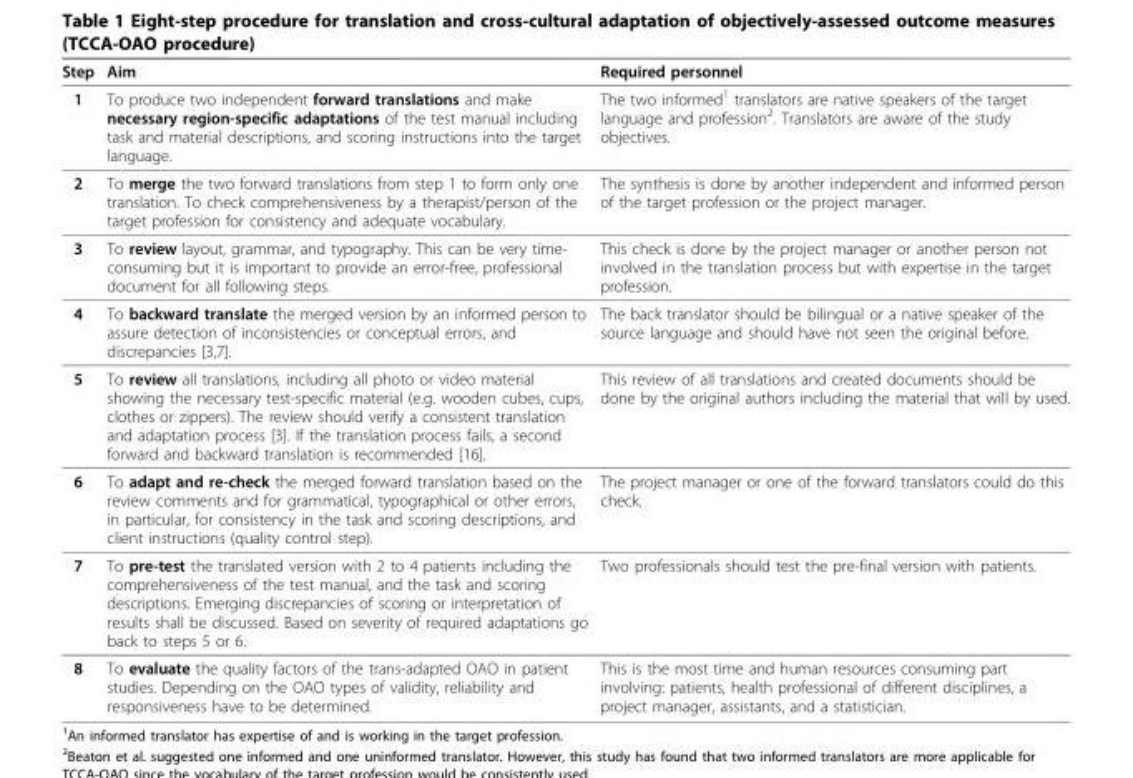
<table><thead><tr><td>Step</td><td>Aim</td><td>Required personnel</td></tr></thead><tbody><tr><td>1</td><td>To produce two independent forward translations and make necessary region-specific adaptations of the test manual including task and material descriptions, and scoring instructions into the target language.</td><td>The two informed1 translators are native speakers of the target language and profession2. Translators are aware of the study objectives.</td></tr><tr><td>2</td><td>To merge the two forward translations from step 1 to form only one translation. To check comprehensiveness by a therapist/person of the target profession for consistency and adequate vocabulary.</td><td>The synthesis is done by another independent and informed person of the target profession or the project manager.</td></tr><tr><td>3</td><td>To review layout, grammar, and typography. This can be very time- consuming but it is important to provide an error-free, professional document for all following steps.</td><td>This check is done by the project manager or another person not involved in the translation process but with expertise in the target profession.</td></tr><tr><td>4</td><td>To backward translate the merged version by an informed person to assure detection of inconsistencies or conceptual errors, and discrepancies [3,7].</td><td>The back translator should be bilingual or a native speaker of the source language and should have not seen the original before.</td></tr><tr><td>5</td><td>To review all translations, including all photo or video material showing the necessary test-specific material (e.g. wooden cubes, cups, clothes or zippers). The review should verify a consistent translation and adaptation process [3]. If the translation process fails, a second forward and backward translation is recommended [16].</td><td>This review of all translations and created documents should be done by the original authors including the material that will by used.</td></tr><tr><td>6</td><td>To adapt and re-check the merged forward translation based on the review comments and for grammatical, typographical or other errors, in particular, for consistency in the task and scoring descriptions, and client instructions (quality control step).</td><td>The project manager or one of the forward translators could do this check.</td></tr><tr><td>7</td><td>To pre-test the translated version with 2 to 4 patients including the comprehensiveness of the test manual, and the task and scoring descriptions. Emerging discrepancies of scoring or interpretation of results shall be discussed. Based on severity of required adaptations go back to steps 5 or 6.</td><td>Two professionals should test the pre-final version with patients.</td></tr><tr><td>8</td><td>To evaluate the quality factors of the trans-adapted OAO in patient studies. Depending on the OAO types of validity, reliability and responsiveness have to be determined.</td><td>This is the most time and human resources consuming part involving: patients, health professional of different disciplines, a project manager, assistants, and a statistician.</td></tr></tbody></table>